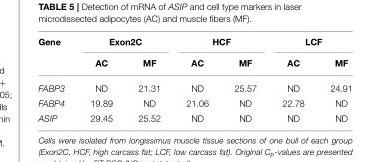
<table><thead><tr><td rowspan="2">Gene</td><td colspan="2">Exon2C</td><td colspan="2">HCF</td><td colspan="2">LCF</td></tr><tr><td>AC</td><td>MF</td><td>AC</td><td>MF</td><td>AC</td><td>MF</td></tr></thead><tbody><tr><td>FABP3</td><td>ND</td><td>21.31</td><td>ND</td><td>25.57</td><td>ND</td><td>24.91</td></tr><tr><td>FABP4</td><td>19.89</td><td>ND</td><td>21.06</td><td>ND</td><td>22.78</td><td>ND</td></tr><tr><td>ASIP</td><td>29.45</td><td>25.52</td><td>ND</td><td>ND</td><td>ND</td><td>ND</td></tr></tbody></table>